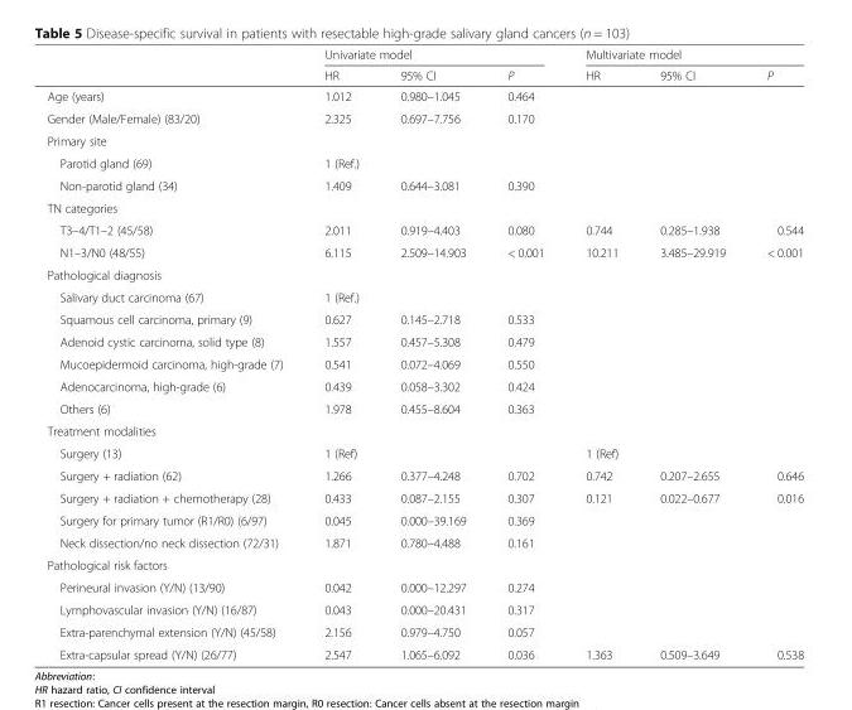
<table><thead><tr><td rowspan="2"></td><td colspan="3">Univariate model</td><td colspan="3">Multivariate model</td></tr><tr><td>HR</td><td>95% CI</td><td>P</td><td>HR</td><td>95% CI</td><td>P</td></tr></thead><tbody><tr><td>Age (years)</td><td>1.012</td><td>0.980–1.045</td><td>0.464</td><td></td><td></td><td></td></tr><tr><td>Gender (Male/Female) (83/20)</td><td>2.325</td><td>0.697–7.756</td><td>0.170</td><td></td><td></td><td></td></tr><tr><td colspan="7">Primary site</td></tr><tr><td>Parotid gland (69)</td><td>1 (Ref.)</td><td></td><td></td><td></td><td></td><td></td></tr><tr><td>Non-parotid gland (34)</td><td>1.409</td><td>0.644–3.081</td><td>0.390</td><td></td><td></td><td></td></tr><tr><td colspan="7">TN categories</td></tr><tr><td>T3–4/T1–2 (45/58)</td><td>2.011</td><td>0.919–4.403</td><td>0.080</td><td>0.744</td><td>0.285–1.938</td><td>0.544</td></tr><tr><td>N1–3/N0 (48/55)</td><td>6.115</td><td>2.509–14.903</td><td>&lt; 0.001</td><td>10.211</td><td>3.485–29.919</td><td>&lt; 0.001</td></tr><tr><td colspan="7">Pathological diagnosis</td></tr><tr><td>Salivary duct carcinoma (67)</td><td>1 (Ref.)</td><td></td><td></td><td></td><td></td><td></td></tr><tr><td>Squamous cell carcinoma, primary (9)</td><td>0.627</td><td>0.145–2.718</td><td>0.533</td><td></td><td></td><td></td></tr><tr><td>Adenoid cystic carcinoma, solid type (8)</td><td>1.557</td><td>0.457–5.308</td><td>0.479</td><td></td><td></td><td></td></tr><tr><td>Mucoepidermoid carcinoma, high-grade (7)</td><td>0.541</td><td>0.072–4.069</td><td>0.550</td><td></td><td></td><td></td></tr><tr><td>Adenocarcinoma, high-grade (6)</td><td>0.439</td><td>0.058–3.302</td><td>0.424</td><td></td><td></td><td></td></tr><tr><td>Others (6)</td><td>1.978</td><td>0.455–8.604</td><td>0.363</td><td></td><td></td><td></td></tr><tr><td colspan="7">Treatment modalities</td></tr><tr><td>Surgery (13)</td><td>1 (Ref)</td><td></td><td></td><td>1 (Ref)</td><td></td><td></td></tr><tr><td>Surgery + radiation (62)</td><td>1.266</td><td>0.377–4.248</td><td>0.702</td><td>0.742</td><td>0.207–2.655</td><td>0.646</td></tr><tr><td>Surgery + radiation + chemotherapy (28)</td><td>0.433</td><td>0.087–2.155</td><td>0.307</td><td>0.121</td><td>0.022–0.677</td><td>0.016</td></tr><tr><td>Surgery for primary tumor (R1/R0) (6/97)</td><td>0.045</td><td>0.000–39.169</td><td>0.369</td><td></td><td></td><td></td></tr><tr><td>Neck dissection/no neck dissection (72/31)</td><td>1.871</td><td>0.780–4.488</td><td>0.161</td><td></td><td></td><td></td></tr><tr><td colspan="7">Pathological risk factors</td></tr><tr><td>Perineural invasion (Y/N) (13/90)</td><td>0.042</td><td>0.000–12.297</td><td>0.274</td><td></td><td></td><td></td></tr><tr><td>Lymphovascular invasion (Y/N) (16/87)</td><td>0.043</td><td>0.000–20.431</td><td>0.317</td><td></td><td></td><td></td></tr><tr><td>Extra-parenchymal extension (Y/N) (45/58)</td><td>2.156</td><td>0.979–4.750</td><td>0.057</td><td></td><td></td><td></td></tr><tr><td>Extra-capsular spread (Y/N) (26/77)</td><td>2.547</td><td>1.065–6.092</td><td>0.036</td><td>1.363</td><td>0.509–3.649</td><td>0.538</td></tr></tbody></table>